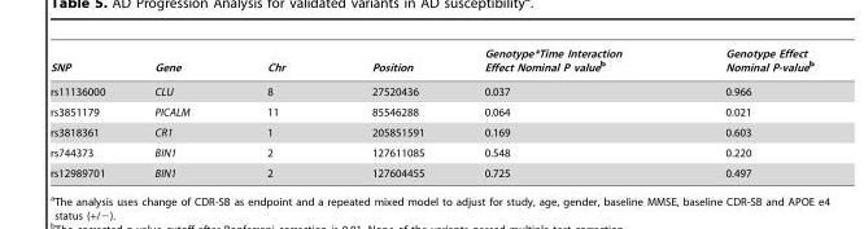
<table><thead><tr><td>SNP</td><td>Gene</td><td>Chr</td><td>Position</td><td>Genotype*Time Interaction Effect Nominal P valueb</td><td>Genotype Effect Nominal P-valueb</td></tr></thead><tbody><tr><td>rs11136000</td><td>CLU</td><td>8</td><td>27520436</td><td>0.037</td><td>0.966</td></tr><tr><td>rs3851179</td><td>PICALM</td><td>11</td><td>85546288</td><td>0.064</td><td>0.021</td></tr><tr><td>rs3818361</td><td>CR1</td><td>1</td><td>205851591</td><td>0.169</td><td>0.603</td></tr><tr><td>rs744373</td><td>BIN1</td><td>2</td><td>127611085</td><td>0.548</td><td>0.220</td></tr><tr><td>rs12989701</td><td>BIN1</td><td>2</td><td>127604455</td><td>0.725</td><td>0.497</td></tr></tbody></table>